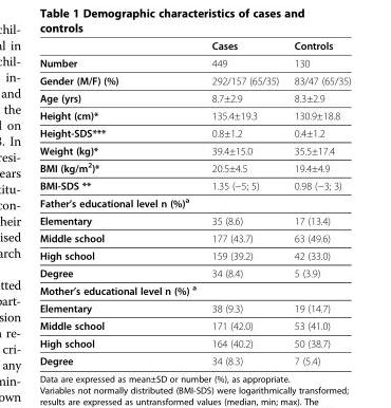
<table><thead><tr><td></td><td>Cases</td><td>Controls</td></tr></thead><tbody><tr><td>Number</td><td>449</td><td>130</td></tr><tr><td>Gender (M/F) (%)</td><td>292/157 (65/35)</td><td>83/47 (65/35)</td></tr><tr><td>Age (yrs)</td><td>8.7±2.9</td><td>8.3±2.9</td></tr><tr><td>Height (cm)*</td><td>135.4±19.3</td><td>130.9±18.8</td></tr><tr><td>Height-SDS***</td><td>0.8±1.2</td><td>0.4±1.2</td></tr><tr><td>Weight (kg)*</td><td>39.4±15.0</td><td>35.5±17.4</td></tr><tr><td>BMI (kg/m<sup>2</sup>)*</td><td>20.5±4.5</td><td>19.4±4.9</td></tr><tr><td>BMI-SDS **</td><td>1.35 (−5; 5)</td><td>0.98 (−3; 3)</td></tr><tr><td colspan="3">Father’s educational level n (%)<sup>a</sup></td></tr><tr><td>Elementary</td><td>35 (8.6)</td><td>17 (13.4)</td></tr><tr><td>Middle school</td><td>177 (43.7)</td><td>63 (49.6)</td></tr><tr><td>High school</td><td>159 (39.2)</td><td>42 (33.0)</td></tr><tr><td>Degree</td><td>34 (8.4)</td><td>5 (3.9)</td></tr><tr><td colspan="3">Mother’s educational level n (%) <sup>a</sup></td></tr><tr><td>Elementary</td><td>38 (9.3)</td><td>19 (14.7)</td></tr><tr><td>Middle school</td><td>171 (42.0)</td><td>53 (41.0)</td></tr><tr><td>High school</td><td>164 (40.2)</td><td>50 (38.7)</td></tr><tr><td>Degree</td><td>34 (8.3)</td><td>7 (5.4)</td></tr></tbody></table>